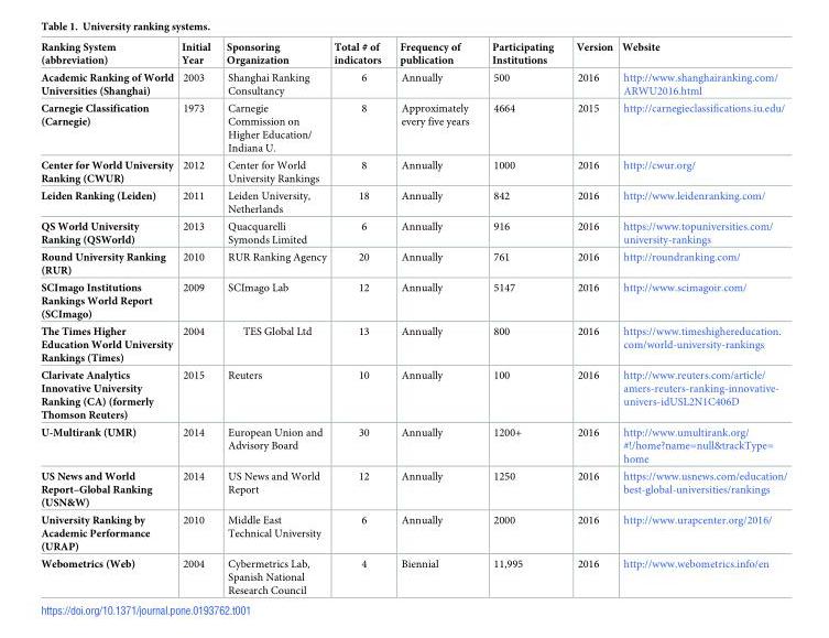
<table><thead><tr><td>Ranking System (abbreviation)</td><td>Initial Year</td><td>Sponsoring Organization</td><td>Total # of indicators</td><td>Frequency of publication</td><td>Participating Institutions</td><td>Version</td><td>Website</td></tr></thead><tbody><tr><td>Academic Ranking of World Universities (Shanghai)</td><td>2003</td><td>Shanghai Ranking Consultancy</td><td>6</td><td>Annually</td><td>500</td><td>2016</td><td>http://www.shanghairanking.com/ ARWU2016.html</td></tr><tr><td>Carnegie Classification (Carnegie)</td><td>1973</td><td>Carnegie Commission on Higher Education/ Indiana U.</td><td>8</td><td>Approximately every five years</td><td>4664</td><td>2015</td><td>http://carnegieclassifications.iu.edu/</td></tr><tr><td>Center for World University Ranking (CWUR)</td><td>2012</td><td>Center for World University Rankings</td><td>8</td><td>Annually</td><td>1000</td><td>2016</td><td>http://cwur.org/</td></tr><tr><td>Leiden Ranking (Leiden)</td><td>2011</td><td>Leiden University, Netherlands</td><td>18</td><td>Annually</td><td>842</td><td>2016</td><td>http://www.leidenranking.com/</td></tr><tr><td>QS World University Ranking (QSWorld)</td><td>2013</td><td>Quacquarelli Symonds Limited</td><td>6</td><td>Annually</td><td>916</td><td>2016</td><td>https://www.topuniversities.com/ university-rankings</td></tr><tr><td>Round University Ranking (RUR)</td><td>2010</td><td>RUR Ranking Agency</td><td>20</td><td>Annually</td><td>761</td><td>2016</td><td>http://roundranking.com/</td></tr><tr><td>SCImago Institutions Rankings World Report (SCImago)</td><td>2009</td><td>SCImago Lab</td><td>12</td><td>Annually</td><td>5147</td><td>2016</td><td>http://www.scimagoir.com/</td></tr><tr><td>The Times Higher Education World University Rankings (Times)</td><td>2004</td><td>TES Global Ltd</td><td>13</td><td>Annually</td><td>800</td><td>2016</td><td>https://www.timeshighereducation. com/world-university-rankings</td></tr><tr><td>Clarivate Analytics Innovative University Ranking (CA) (formerly Thomson Reuters)</td><td>2015</td><td>Reuters</td><td>10</td><td>Annually</td><td>100</td><td>2016</td><td>http://www.reuters.com/article/ amers-reuters-ranking-innovative- univers-idUSL2N1C406D</td></tr><tr><td>U-Multirank (UMR)</td><td>2014</td><td>European Union and Advisory Board</td><td>30</td><td>Annually</td><td>1200+</td><td>2016</td><td>http://www.umultirank.org/ #!/home?name=null&amp;trackType= home</td></tr><tr><td>US News and World Report–Global Ranking (USN&amp;W)</td><td>2014</td><td>US News and World Report</td><td>12</td><td>Annually</td><td>1250</td><td>2016</td><td>https://www.usnews.com/education/ best-global-universities/rankings</td></tr><tr><td>University Ranking by Academic Performance (URAP)</td><td>2010</td><td>Middle East Technical University</td><td>6</td><td>Annually</td><td>2000</td><td>2016</td><td>http://www.urapcenter.org/2016/</td></tr><tr><td>Webometrics (Web)</td><td>2004</td><td>Cybermetrics Lab, Spanish National Research Council</td><td>4</td><td>Biennial</td><td>11,995</td><td>2016</td><td>http://www.webometrics.info/en</td></tr></tbody></table>